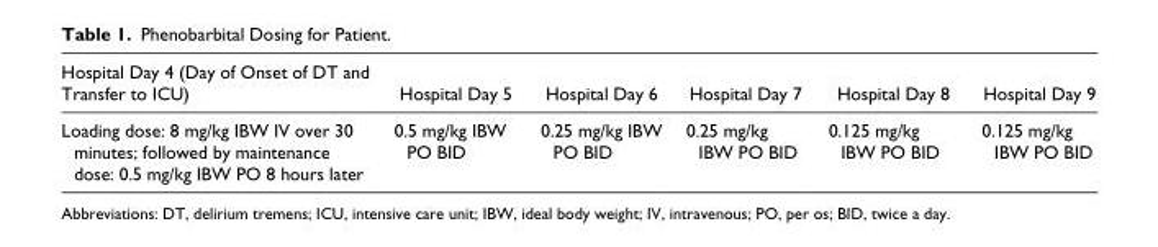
<table><thead><tr><td>Hospital Day 4 (Day of Onset of DT and Transfer to ICU)</td><td>Hospital Day 5</td><td>Hospital Day 6</td><td>Hospital Day 7</td><td>Hospital Day 8</td><td>Hospital Day 9</td></tr></thead><tbody><tr><td>Loading dose: 8 mg/kg IBW IV over 30 minutes; followed by maintenance dose: 0.5 mg/kg IBW PO 8 hours later</td><td>0.5 mg/kg IBW PO BID</td><td>0.25 mg/kg IBW PO BID</td><td>0.25 mg/kg IBW PO BID</td><td>0.125 mg/kg IBW PO BID</td><td>0.125 mg/kg IBW PO BID</td></tr></tbody></table>